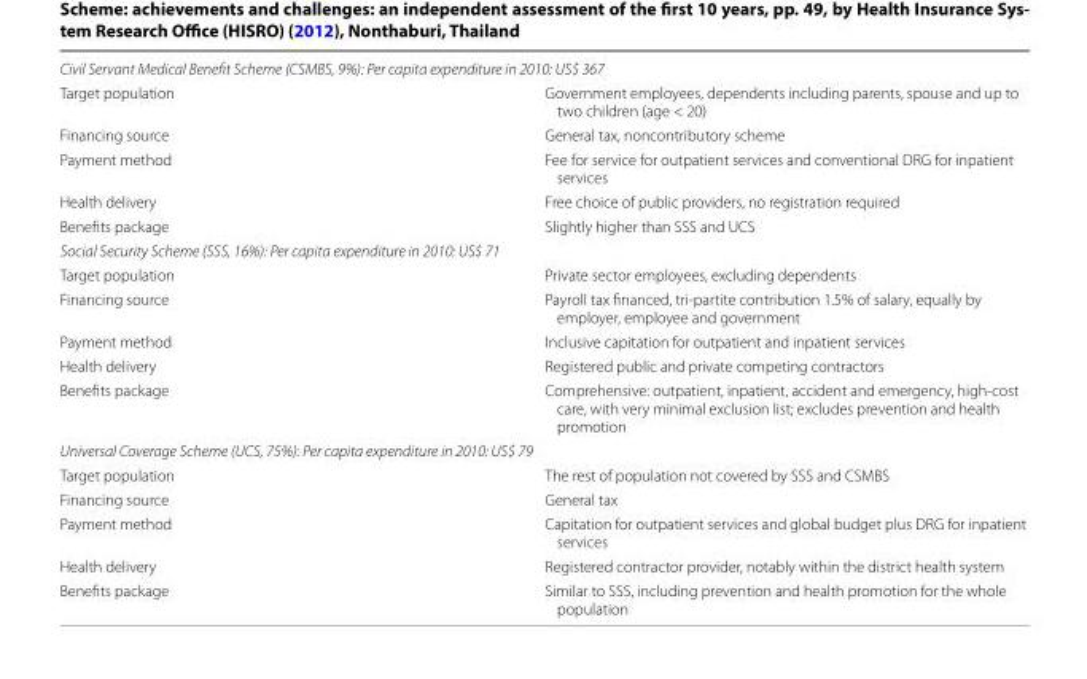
<table><tbody><tr><td colspan="2">Civil Servant Medical Benefit Scheme (CSMBS, 9%): Per capita expenditure in 2010: US$ 367</td></tr><tr><td>Target population</td><td>Government employees, dependents including parents, spouse and up to two children (age &lt; 20)</td></tr><tr><td>Financing source</td><td>General tax, noncontributory scheme</td></tr><tr><td>Payment method</td><td>Fee for service for outpatient services and conventional DRG for inpatient services</td></tr><tr><td>Health delivery</td><td>Free choice of public providers, no registration required</td></tr><tr><td>Benefits package</td><td>Slightly higher than SSS and UCS</td></tr><tr><td colspan="2">Social Security Scheme (SSS, 16%): Per capita expenditure in 2010: US$ 71</td></tr><tr><td>Target population</td><td>Private sector employees, excluding dependents</td></tr><tr><td>Financing source</td><td>Payroll tax financed, tri-partite contribution 1.5% of salary, equally by employer, employee and government</td></tr><tr><td>Payment method</td><td>Inclusive capitation for outpatient and inpatient services</td></tr><tr><td>Health delivery</td><td>Registered public and private competing contractors</td></tr><tr><td>Benefits package</td><td>Comprehensive: outpatient, inpatient, accident and emergency, high-cost care, with very minimal exclusion list; excludes prevention and health promotion</td></tr><tr><td colspan="2">Universal Coverage Scheme (UCS, 75%): Per capita expenditure in 2010: US$ 79</td></tr><tr><td>Target population</td><td>The rest of population not covered by SSS and CSMBS</td></tr><tr><td>Financing source</td><td>General tax</td></tr><tr><td>Payment method</td><td>Capitation for outpatient services and global budget plus DRG for inpatient services</td></tr><tr><td>Health delivery</td><td>Registered contractor provider, notably within the district health system</td></tr><tr><td>Benefits package</td><td>Similar to SSS, including prevention and health promotion for the whole population</td></tr></tbody></table>